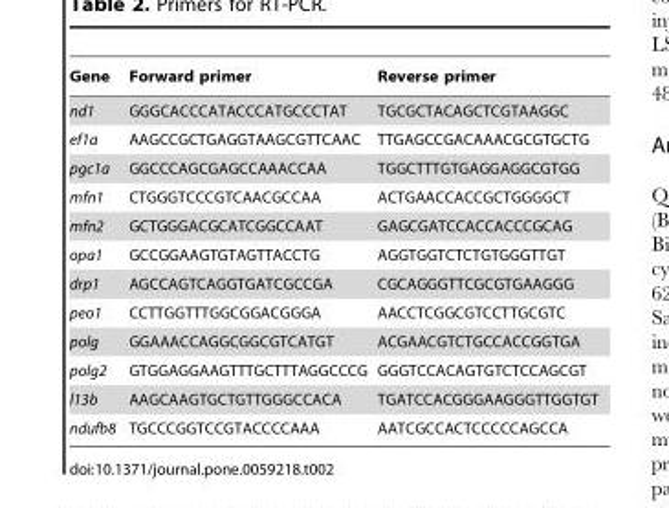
<table><thead><tr><td>Gene</td><td>Forward primer</td><td>Reverse primer</td></tr></thead><tbody><tr><td>nd1</td><td>GGGCACCCATACCCATGCCCTAT</td><td>TGCGCTACAGCTCGTAAGGC</td></tr><tr><td>ef1a</td><td>AAGCCGCTGAGGTAAGCGTTCAAC</td><td>TTGAGCCGACAAACGCGTGCTG</td></tr><tr><td>pgc1a</td><td>GGCCCAGCGAGCCAAACCAA</td><td>TGGCTTTGTGAGGAGGCGTGG</td></tr><tr><td>mfn1</td><td>CTGGGTCCCGTCAACGCCAA</td><td>ACTGAACCACCGCTGGGGCT</td></tr><tr><td>mfn2</td><td>GCTGGGACGCATCGGCCAAT</td><td>GAGCGATCCACCACCCGCAG</td></tr><tr><td>opa1</td><td>GCCGGAAGTGTAGTTACCTG</td><td>AGGTGGTCTCTGTGGGTTGT</td></tr><tr><td>drp1</td><td>AGCCAGTCAGGTGATCGCCGA</td><td>CGCAGGGTTCGCGTGAAGGG</td></tr><tr><td>peo1</td><td>CCTTGGTTTGGCGGACGGGA</td><td>AACCTCGGCGTCCTTGCGTC</td></tr><tr><td>polg</td><td>GGAAACCAGGCGGCGTCATGT</td><td>ACGAACGTCTGCCACCGGTGA</td></tr><tr><td>polg2</td><td>GTGGAGGAAGTTTGCTTTAGGCCCG</td><td>GGGTCCACAGTGTCTCCAGCGT</td></tr><tr><td>l13b</td><td>AAGCAAGTGCTGTTGGGCCACA</td><td>TGATCCACGGGAAGGGTTGGTGT</td></tr><tr><td>ndufb8</td><td>TGCCCGGTCCGTACCCCAAA</td><td>AATCGCCACTCCCCCAGCCA</td></tr></tbody></table>